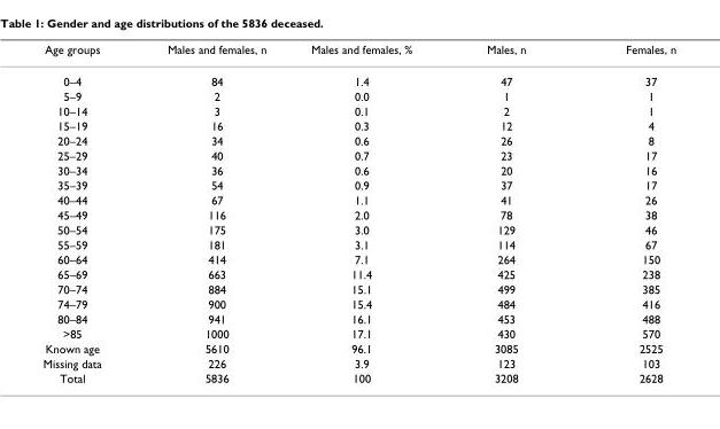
<table><thead><tr><td>Age groups</td><td>Males and females, n</td><td>Males and females, %</td><td>Males, n</td><td>Females, n</td></tr></thead><tbody><tr><td>0–4</td><td>84</td><td>1.4</td><td>47</td><td>37</td></tr><tr><td>5–9</td><td>2</td><td>0.0</td><td>1</td><td>1</td></tr><tr><td>10–14</td><td>3</td><td>0.1</td><td>2</td><td>1</td></tr><tr><td>15–19</td><td>16</td><td>0.3</td><td>12</td><td>4</td></tr><tr><td>20–24</td><td>34</td><td>0.6</td><td>26</td><td>8</td></tr><tr><td>25–29</td><td>40</td><td>0.7</td><td>23</td><td>17</td></tr><tr><td>30–34</td><td>36</td><td>0.6</td><td>20</td><td>16</td></tr><tr><td>35–39</td><td>54</td><td>0.9</td><td>37</td><td>17</td></tr><tr><td>40–44</td><td>67</td><td>1.1</td><td>41</td><td>26</td></tr><tr><td>45–49</td><td>116</td><td>2.0</td><td>78</td><td>38</td></tr><tr><td>50–54</td><td>175</td><td>3.0</td><td>129</td><td>46</td></tr><tr><td>55–59</td><td>181</td><td>3.1</td><td>114</td><td>67</td></tr><tr><td>60–64</td><td>414</td><td>7.1</td><td>264</td><td>150</td></tr><tr><td>65–69</td><td>663</td><td>11.4</td><td>425</td><td>238</td></tr><tr><td>70–74</td><td>884</td><td>15.1</td><td>499</td><td>385</td></tr><tr><td>74–79</td><td>900</td><td>15.4</td><td>484</td><td>416</td></tr><tr><td>80–84</td><td>941</td><td>16.1</td><td>453</td><td>488</td></tr><tr><td>&gt;85</td><td>1000</td><td>17.1</td><td>430</td><td>570</td></tr><tr><td>Known age</td><td>5610</td><td>96.1</td><td>3085</td><td>2525</td></tr><tr><td>Missing data</td><td>226</td><td>3.9</td><td>123</td><td>103</td></tr><tr><td>Total</td><td>5836</td><td>100</td><td>3208</td><td>2628</td></tr></tbody></table>